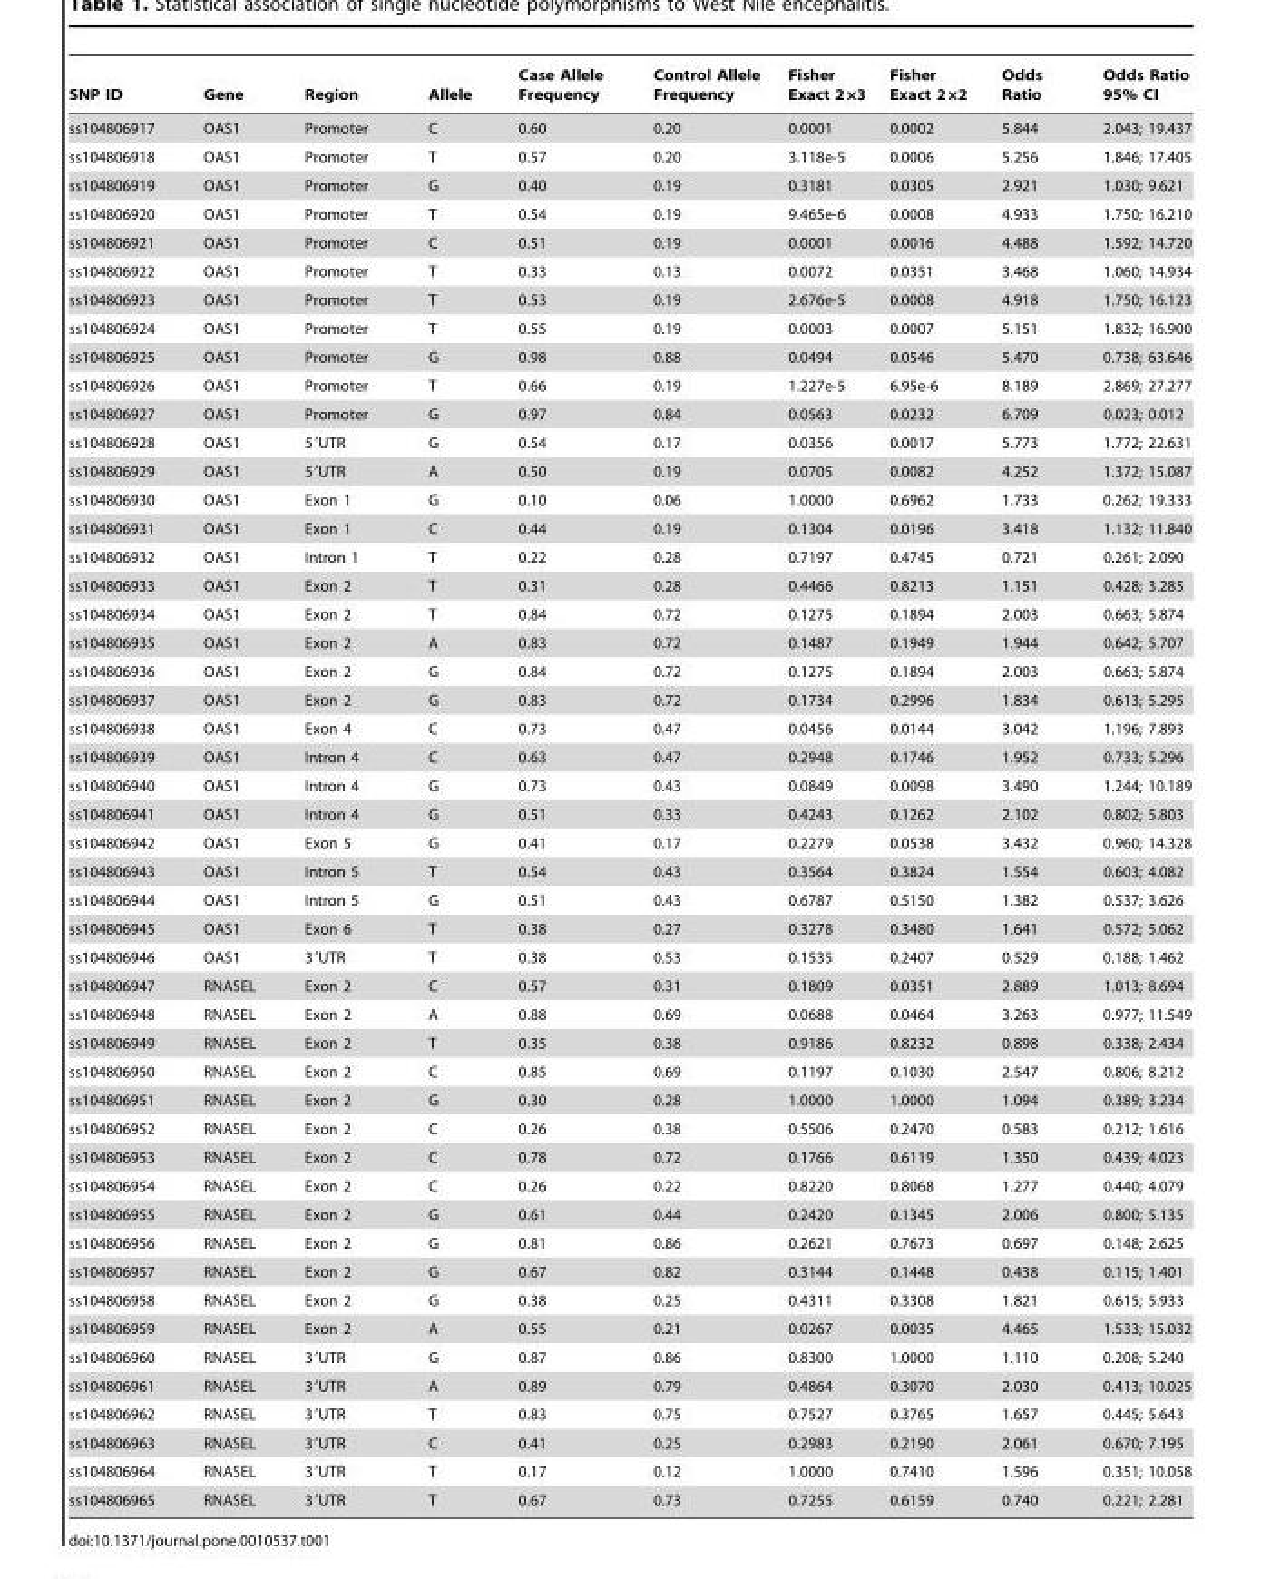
<table><thead><tr><td>SNP ID</td><td>Gene</td><td>Region</td><td>Allele</td><td>Case Allele Frequency</td><td>Control Allele Frequency</td><td>Fisher Exact 2×3</td><td>Fisher Exact 2×2</td><td>Odds Ratio</td><td>Odds Ratio 95% CI</td></tr></thead><tbody><tr><td>ss104806917</td><td>OAS1</td><td>Promoter</td><td>C</td><td>0.60</td><td>0.20</td><td>0.0001</td><td>0.0002</td><td>5.844</td><td>2.043; 19.437</td></tr><tr><td>ss104806918</td><td>OAS1</td><td>Promoter</td><td>T</td><td>0.57</td><td>0.20</td><td>3.118e-5</td><td>0.0006</td><td>5.256</td><td>1.846; 17.405</td></tr><tr><td>ss104806919</td><td>OAS1</td><td>Promoter</td><td>G</td><td>0.40</td><td>0.19</td><td>0.3181</td><td>0.0305</td><td>2.921</td><td>1.030; 9.621</td></tr><tr><td>ss104806920</td><td>OAS1</td><td>Promoter</td><td>T</td><td>0.54</td><td>0.19</td><td>9.465e-6</td><td>0.0008</td><td>4.933</td><td>1.750; 16.210</td></tr><tr><td>ss104806921</td><td>OAS1</td><td>Promoter</td><td>C</td><td>0.51</td><td>0.19</td><td>0.0001</td><td>0.0016</td><td>4.488</td><td>1.592; 14.720</td></tr><tr><td>ss104806922</td><td>OAS1</td><td>Promoter</td><td>T</td><td>0.33</td><td>0.13</td><td>0.0072</td><td>0.0351</td><td>3.468</td><td>1.060; 14.934</td></tr><tr><td>ss104806923</td><td>OAS1</td><td>Promoter</td><td>T</td><td>0.53</td><td>0.19</td><td>2.676e-5</td><td>0.0008</td><td>4.918</td><td>1.750; 16.123</td></tr><tr><td>ss104806924</td><td>OAS1</td><td>Promoter</td><td>T</td><td>0.55</td><td>0.19</td><td>0.0003</td><td>0.0007</td><td>5.151</td><td>1.832; 16.900</td></tr><tr><td>ss104806925</td><td>OAS1</td><td>Promoter</td><td>G</td><td>0.98</td><td>0.88</td><td>0.0494</td><td>0.0546</td><td>5.470</td><td>0.738; 63.646</td></tr><tr><td>ss104806926</td><td>OAS1</td><td>Promoter</td><td>T</td><td>0.66</td><td>0.19</td><td>1.227e-5</td><td>6.95e-6</td><td>8.189</td><td>2.869; 27.277</td></tr><tr><td>ss104806927</td><td>OAS1</td><td>Promoter</td><td>G</td><td>0.97</td><td>0.84</td><td>0.0563</td><td>0.0232</td><td>6.709</td><td>0.023; 0.012</td></tr><tr><td>ss104806928</td><td>OAS1</td><td>5′UTR</td><td>G</td><td>0.54</td><td>0.17</td><td>0.0356</td><td>0.0017</td><td>5.773</td><td>1.772; 22.631</td></tr><tr><td>ss104806929</td><td>OAS1</td><td>5′UTR</td><td>A</td><td>0.50</td><td>0.19</td><td>0.0705</td><td>0.0082</td><td>4.252</td><td>1.372; 15.087</td></tr><tr><td>ss104806930</td><td>OAS1</td><td>Exon 1</td><td>G</td><td>0.10</td><td>0.06</td><td>1.0000</td><td>0.6962</td><td>1.733</td><td>0.262; 19.333</td></tr><tr><td>ss104806931</td><td>OAS1</td><td>Exon 1</td><td>C</td><td>0.44</td><td>0.19</td><td>0.1304</td><td>0.0196</td><td>3.418</td><td>1.132; 11.840</td></tr><tr><td>ss104806932</td><td>OAS1</td><td>Intron 1</td><td>T</td><td>0.22</td><td>0.28</td><td>0.7197</td><td>0.4745</td><td>0.721</td><td>0.261; 2.090</td></tr><tr><td>ss104806933</td><td>OAS1</td><td>Exon 2</td><td>T</td><td>0.31</td><td>0.28</td><td>0.4466</td><td>0.8213</td><td>1.151</td><td>0.428; 3.285</td></tr><tr><td>ss104806934</td><td>OAS1</td><td>Exon 2</td><td>T</td><td>0.84</td><td>0.72</td><td>0.1275</td><td>0.1894</td><td>2.003</td><td>0.663; 5.874</td></tr><tr><td>ss104806935</td><td>OAS1</td><td>Exon 2</td><td>A</td><td>0.83</td><td>0.72</td><td>0.1487</td><td>0.1949</td><td>1.944</td><td>0.642; 5.707</td></tr><tr><td>ss104806936</td><td>OAS1</td><td>Exon 2</td><td>G</td><td>0.84</td><td>0.72</td><td>0.1275</td><td>0.1894</td><td>2.003</td><td>0.663; 5.874</td></tr><tr><td>ss104806937</td><td>OAS1</td><td>Exon 2</td><td>G</td><td>0.83</td><td>0.72</td><td>0.1734</td><td>0.2996</td><td>1.834</td><td>0.613; 5.295</td></tr><tr><td>ss104806938</td><td>OAS1</td><td>Exon 4</td><td>C</td><td>0.73</td><td>0.47</td><td>0.0456</td><td>0.0144</td><td>3.042</td><td>1.196; 7.893</td></tr><tr><td>ss104806939</td><td>OAS1</td><td>Intron 4</td><td>C</td><td>0.63</td><td>0.47</td><td>0.2948</td><td>0.1746</td><td>1.952</td><td>0.733; 5.296</td></tr><tr><td>ss104806940</td><td>OAS1</td><td>Intron 4</td><td>G</td><td>0.73</td><td>0.43</td><td>0.0849</td><td>0.0098</td><td>3.490</td><td>1.244; 10.189</td></tr><tr><td>ss104806941</td><td>OAS1</td><td>Intron 4</td><td>G</td><td>0.51</td><td>0.33</td><td>0.4243</td><td>0.1262</td><td>2.102</td><td>0.802; 5.803</td></tr><tr><td>ss104806942</td><td>OAS1</td><td>Exon 5</td><td>G</td><td>0.41</td><td>0.17</td><td>0.2279</td><td>0.0538</td><td>3.432</td><td>0.960; 14.328</td></tr><tr><td>ss104806943</td><td>OAS1</td><td>Intron 5</td><td>T</td><td>0.54</td><td>0.43</td><td>0.3564</td><td>0.3824</td><td>1.554</td><td>0.603; 4.082</td></tr><tr><td>ss104806944</td><td>OAS1</td><td>Intron 5</td><td>G</td><td>0.51</td><td>0.43</td><td>0.6787</td><td>0.5150</td><td>1.382</td><td>0.537; 3.626</td></tr><tr><td>ss104806945</td><td>OAS1</td><td>Exon 6</td><td>T</td><td>0.38</td><td>0.27</td><td>0.3278</td><td>0.3480</td><td>1.641</td><td>0.572; 5.062</td></tr><tr><td>ss104806946</td><td>OAS1</td><td>3′UTR</td><td>T</td><td>0.38</td><td>0.53</td><td>0.1535</td><td>0.2407</td><td>0.529</td><td>0.188; 1.462</td></tr><tr><td>ss104806947</td><td>RNASEL</td><td>Exon 2</td><td>C</td><td>0.57</td><td>0.31</td><td>0.1809</td><td>0.0351</td><td>2.889</td><td>1.013; 8.694</td></tr><tr><td>ss104806948</td><td>RNASEL</td><td>Exon 2</td><td>A</td><td>0.88</td><td>0.69</td><td>0.0688</td><td>0.0464</td><td>3.263</td><td>0.977; 11.549</td></tr><tr><td>ss104806949</td><td>RNASEL</td><td>Exon 2</td><td>T</td><td>0.35</td><td>0.38</td><td>0.9186</td><td>0.8232</td><td>0.898</td><td>0.338; 2.434</td></tr><tr><td>ss104806950</td><td>RNASEL</td><td>Exon 2</td><td>C</td><td>0.85</td><td>0.69</td><td>0.1197</td><td>0.1030</td><td>2.547</td><td>0.806; 8.212</td></tr><tr><td>ss104806951</td><td>RNASEL</td><td>Exon 2</td><td>G</td><td>0.30</td><td>0.28</td><td>1.0000</td><td>1.0000</td><td>1.094</td><td>0.389; 3.234</td></tr><tr><td>ss104806952</td><td>RNASEL</td><td>Exon 2</td><td>C</td><td>0.26</td><td>0.38</td><td>0.5506</td><td>0.2470</td><td>0.583</td><td>0.212; 1.616</td></tr><tr><td>ss104806953</td><td>RNASEL</td><td>Exon 2</td><td>C</td><td>0.78</td><td>0.72</td><td>0.1766</td><td>0.6119</td><td>1.350</td><td>0.439; 4.023</td></tr><tr><td>ss104806954</td><td>RNASEL</td><td>Exon 2</td><td>C</td><td>0.26</td><td>0.22</td><td>0.8220</td><td>0.8068</td><td>1.277</td><td>0.440; 4.079</td></tr><tr><td>ss104806955</td><td>RNASEL</td><td>Exon 2</td><td>G</td><td>0.61</td><td>0.44</td><td>0.2420</td><td>0.1345</td><td>2.006</td><td>0.800; 5.135</td></tr><tr><td>ss104806956</td><td>RNASEL</td><td>Exon 2</td><td>G</td><td>0.81</td><td>0.86</td><td>0.2621</td><td>0.7673</td><td>0.697</td><td>0.148; 2.625</td></tr><tr><td>ss104806957</td><td>RNASEL</td><td>Exon 2</td><td>G</td><td>0.67</td><td>0.82</td><td>0.3144</td><td>0.1448</td><td>0.438</td><td>0.115; 1.401</td></tr><tr><td>ss104806958</td><td>RNASEL</td><td>Exon 2</td><td>G</td><td>0.38</td><td>0.25</td><td>0.4311</td><td>0.3308</td><td>1.821</td><td>0.615; 5.933</td></tr><tr><td>ss104806959</td><td>RNASEL</td><td>Exon 2</td><td>A</td><td>0.55</td><td>0.21</td><td>0.0267</td><td>0.0035</td><td>4.465</td><td>1.533; 15.032</td></tr><tr><td>ss104806960</td><td>RNASEL</td><td>3′UTR</td><td>G</td><td>0.87</td><td>0.86</td><td>0.8300</td><td>1.0000</td><td>1.110</td><td>0.208; 5.240</td></tr><tr><td>ss104806961</td><td>RNASEL</td><td>3′UTR</td><td>A</td><td>0.89</td><td>0.79</td><td>0.4864</td><td>0.3070</td><td>2.030</td><td>0.413; 10.025</td></tr><tr><td>ss104806962</td><td>RNASEL</td><td>3′UTR</td><td>T</td><td>0.83</td><td>0.75</td><td>0.7527</td><td>0.3765</td><td>1.657</td><td>0.445; 5.643</td></tr><tr><td>ss104806963</td><td>RNASEL</td><td>3′UTR</td><td>C</td><td>0.41</td><td>0.25</td><td>0.2983</td><td>0.2190</td><td>2.061</td><td>0.670; 7.195</td></tr><tr><td>ss104806964</td><td>RNASEL</td><td>3′UTR</td><td>T</td><td>0.17</td><td>0.12</td><td>1.0000</td><td>0.7410</td><td>1.596</td><td>0.351; 10.058</td></tr><tr><td>ss104806965</td><td>RNASEL</td><td>3′UTR</td><td>T</td><td>0.67</td><td>0.73</td><td>0.7255</td><td>0.6159</td><td>0.740</td><td>0.221; 2.281</td></tr></tbody></table>